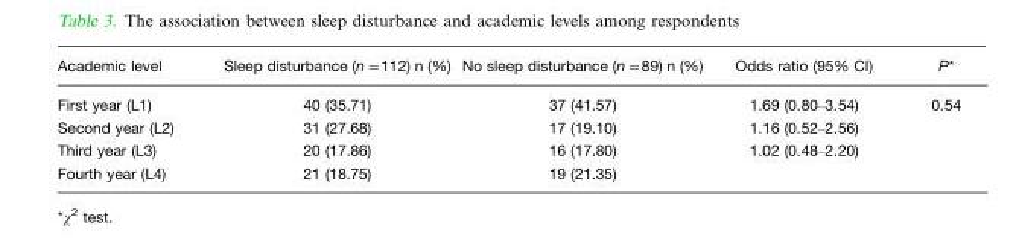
<table><thead><tr><td>Academic level</td><td>Sleep disturbance (n=112) n (%)</td><td>No sleep disturbance (n=89) n (%)</td><td>Odds ratio (95% CI)</td><td>P*</td></tr></thead><tbody><tr><td>First year (L1)</td><td>40 (35.71)</td><td>37 (41.57)</td><td>1.69 (0.80–3.54)</td><td>0.54</td></tr><tr><td>Second year (L2)</td><td>31 (27.68)</td><td>17 (19.10)</td><td>1.16 (0.52–2.56)</td><td></td></tr><tr><td>Third year (L3)</td><td>20 (17.86)</td><td>16 (17.80)</td><td>1.02 (0.48–2.20)</td><td></td></tr><tr><td>Fourth year (L4)</td><td>21 (18.75)</td><td>19 (21.35)</td><td></td><td></td></tr></tbody></table>